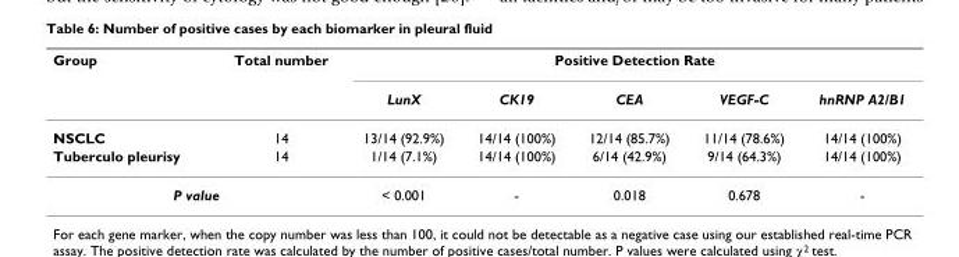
<table><thead><tr><td rowspan="2">Group</td><td rowspan="2">Total number</td><td colspan="5">Positive Detection Rate</td></tr><tr><td>LunX</td><td>CK19</td><td>CEA</td><td>VEGF-C</td><td>hnRNP A2/B1</td></tr></thead><tbody><tr><td>NSCLC</td><td>14</td><td>13/14 (92.9%)</td><td>14/14 (100%)</td><td>12/14 (85.7%)</td><td>11/14 (78.6%)</td><td>14/14 (100%)</td></tr><tr><td>Tuberculo pleurisy</td><td>14</td><td>1/14 (7.1%)</td><td>14/14 (100%)</td><td>6/14 (42.9%)</td><td>9/14 (64.3%)</td><td>14/14 (100%)</td></tr><tr><td colspan="2">P value</td><td>&lt; 0.001</td><td>-</td><td>0.018</td><td>0.678</td><td>-</td></tr></tbody></table>